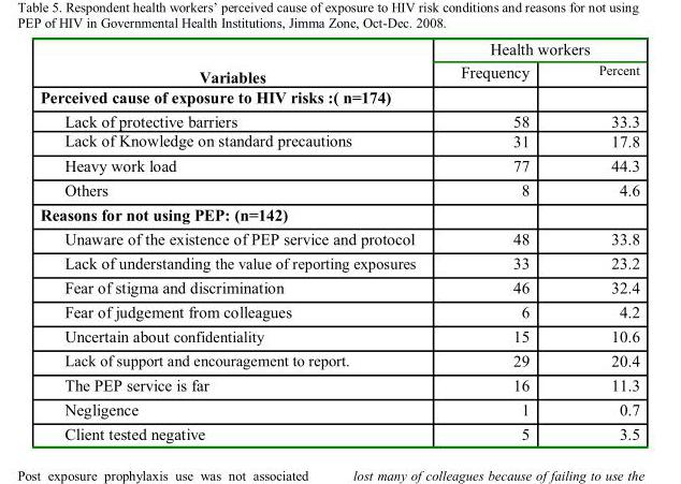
<table><thead><tr><td rowspan="2">Variables</td><td colspan="2">Health workers</td></tr><tr><td>Frequency</td><td>Percent</td></tr></thead><tbody><tr><td colspan="3">Perceived cause of exposure to HIV risks :( n=174)</td></tr><tr><td>Lack of protective barriers</td><td>58</td><td>33.3</td></tr><tr><td>Lack of Knowledge on standard precautions</td><td>31</td><td>17.8</td></tr><tr><td>Heavy work load</td><td>77</td><td>44.3</td></tr><tr><td>Others</td><td>8</td><td>4.6</td></tr><tr><td colspan="3">Reasons for not using PEP: (n=142)</td></tr><tr><td>Unaware of the existence of PEP service and protocol</td><td>48</td><td>33.8</td></tr><tr><td>Lack of understanding the value of reporting exposures</td><td>33</td><td>23.2</td></tr><tr><td>Fear of stigma and discrimination</td><td>46</td><td>32.4</td></tr><tr><td>Fear of judgement from colleagues</td><td>6</td><td>4.2</td></tr><tr><td>Uncertain about confidentiality</td><td>15</td><td>10.6</td></tr><tr><td>Lack of support and encouragement to report.</td><td>29</td><td>20.4</td></tr><tr><td>The PEP service is far</td><td>16</td><td>11.3</td></tr><tr><td>Negligence</td><td>1</td><td>0.7</td></tr><tr><td>Client tested negative</td><td>5</td><td>3.5</td></tr></tbody></table>